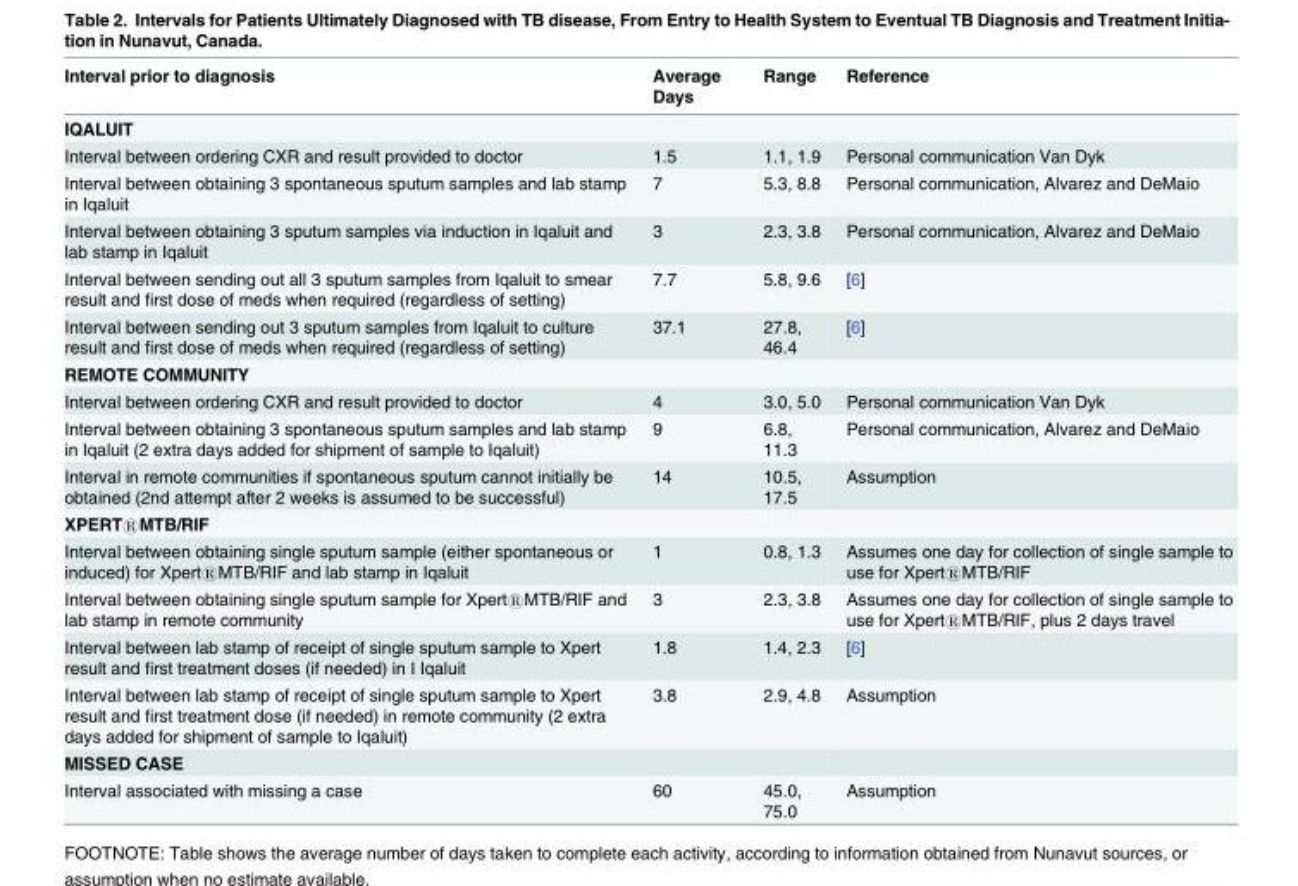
<table><thead><tr><td>Interval prior to diagnosis</td><td>Average Days</td><td>Range</td><td>Reference</td></tr></thead><tbody><tr><td colspan="4">IQALUIT</td></tr><tr><td>Interval between ordering CXR and result provided to doctor</td><td>1.5</td><td>1.1, 1.9</td><td>Personal communication Van Dyk</td></tr><tr><td>Interval between obtaining 3 spontaneous sputum samples and lab stamp in Iqaluit</td><td>7</td><td>5.3, 8.8</td><td>Personal communication, Alvarez and DeMaio</td></tr><tr><td>Interval between obtaining 3 sputum samples via induction in Iqaluit and lab stamp in Iqaluit</td><td>3</td><td>2.3, 3.8</td><td>Personal communication, Alvarez and DeMaio</td></tr><tr><td>Interval between sending out all 3 sputum samples from Iqaluit to smear result and first dose of meds when required (regardless of setting)</td><td>7.7</td><td>5.8, 9.6</td><td>[6]</td></tr><tr><td>Interval between sending out 3 sputum samples from Iqaluit to culture result and first dose of meds when required (regardless of setting)</td><td>37.1</td><td>27.8, 46.4</td><td>[6]</td></tr><tr><td colspan="4">REMOTE COMMUNITY</td></tr><tr><td>Interval between ordering CXR and result provided to doctor</td><td>4</td><td>3.0, 5.0</td><td>Personal communication Van Dyk</td></tr><tr><td>Interval between obtaining 3 spontaneous sputum samples and lab stamp in Iqaluit (2 extra days added for shipment of sample to Iqaluit)</td><td>9</td><td>6.8, 11.3</td><td>Personal communication, Alvarez and DeMaio</td></tr><tr><td>Interval in remote communities if spontaneous sputum cannot initially be obtained (2nd attempt after 2 weeks is assumed to be successful)</td><td>14</td><td>10.5, 17.5</td><td>Assumption</td></tr><tr><td colspan="4">XPERT®MTB/RIF</td></tr><tr><td>Interval between obtaining single sputum sample (either spontaneous or induced) for Xpert®MTB/RIF and lab stamp in Iqaluit</td><td>1</td><td>0.8, 1.3</td><td>Assumes one day for collection of single sample to use for Xpert®MTB/RIF</td></tr><tr><td>Interval between obtaining single sputum sample for Xpert®MTB/RIF and lab stamp in remote community</td><td>3</td><td>2.3, 3.8</td><td>Assumes one day for collection of single sample to use for Xpert®MTB/RIF, plus 2 days travel</td></tr><tr><td>Interval between lab stamp of receipt of single sputum sample to Xpert result and first treatment doses (if needed) in I Iqaluit</td><td>1.8</td><td>1.4, 2.3</td><td>[6]</td></tr><tr><td>Interval between lab stamp of receipt of single sputum sample to Xpert result and first treatment dose (if needed) in remote community (2 extra days added for shipment of sample to Iqaluit)</td><td>3.8</td><td>2.9, 4.8</td><td>Assumption</td></tr><tr><td colspan="4">MISSED CASE</td></tr><tr><td>Interval associated with missing a case</td><td>60</td><td>45.0, 75.0</td><td>Assumption</td></tr></tbody></table>